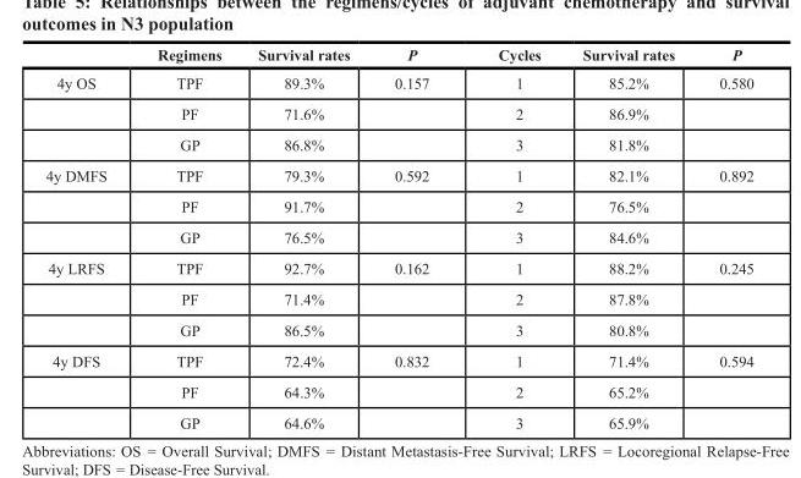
<table><thead><tr><td></td><td>Regimens</td><td>Survival rates</td><td>P</td><td>Cycles</td><td>Survival rates</td><td>P</td></tr></thead><tbody><tr><td rowspan="3">4y OS</td><td>TPF</td><td>89.3%</td><td>0.157</td><td>1</td><td>85.2%</td><td>0.580</td></tr><tr><td>PF</td><td>71.6%</td><td></td><td>2</td><td>86.9%</td><td></td></tr><tr><td>GP</td><td>86.8%</td><td></td><td>3</td><td>81.8%</td><td></td></tr><tr><td rowspan="3">4y DMFS</td><td>TPF</td><td>79.3%</td><td>0.592</td><td>1</td><td>82.1%</td><td>0.892</td></tr><tr><td>PF</td><td>91.7%</td><td></td><td>2</td><td>76.5%</td><td></td></tr><tr><td>GP</td><td>76.5%</td><td></td><td>3</td><td>84.6%</td><td></td></tr><tr><td rowspan="3">4y LRFS</td><td>TPF</td><td>92.7%</td><td>0.162</td><td>1</td><td>88.2%</td><td>0.245</td></tr><tr><td>PF</td><td>71.4%</td><td></td><td>2</td><td>87.8%</td><td></td></tr><tr><td>GP</td><td>86.5%</td><td></td><td>3</td><td>80.8%</td><td></td></tr><tr><td rowspan="3">4y DFS</td><td>TPF</td><td>72.4%</td><td>0.832</td><td>1</td><td>71.4%</td><td>0.594</td></tr><tr><td>PF</td><td>64.3%</td><td></td><td>2</td><td>65.2%</td><td></td></tr><tr><td>GP</td><td>64.6%</td><td></td><td>3</td><td>65.9%</td><td></td></tr></tbody></table>